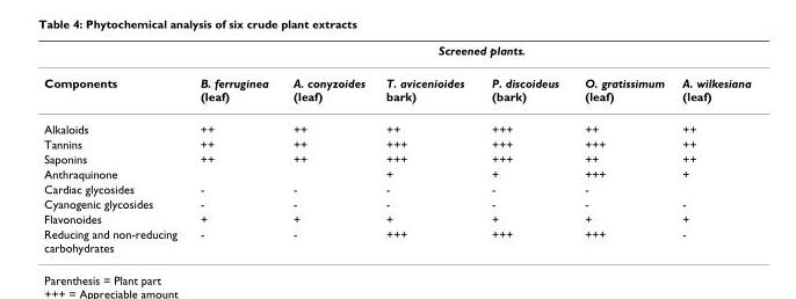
<table><thead><tr><td rowspan="2">Components</td><td colspan="6">Screened plants.</td></tr><tr><td>B. ferruginea (leaf)</td><td>A. conyzoides (leaf)</td><td>T. avicenioides bark)</td><td>P. discoideus (bark)</td><td>O. gratissimum (leaf)</td><td>A. wilkesiana (leaf)</td></tr></thead><tbody><tr><td>Alkaloids</td><td>++</td><td>++</td><td>++</td><td>+++</td><td>++</td><td>++</td></tr><tr><td>Tannins</td><td>++</td><td>++</td><td>+++</td><td>+++</td><td>+++</td><td>++</td></tr><tr><td>Saponins</td><td>++</td><td>++</td><td>+++</td><td>+++</td><td>++</td><td>++</td></tr><tr><td>Anthraquinone</td><td></td><td></td><td>+</td><td>+</td><td>+++</td><td>+</td></tr><tr><td>Cardiac glycosides</td><td>-</td><td>-</td><td>-</td><td>-</td><td>-</td><td></td></tr><tr><td>Cyanogenic glycosides</td><td>-</td><td>-</td><td>-</td><td>-</td><td>-</td><td>-</td></tr><tr><td>Flavonoides</td><td>+</td><td>+</td><td>+</td><td>+</td><td>+</td><td>+</td></tr><tr><td>Reducing and non-reducing carbohydrates</td><td>-</td><td>-</td><td>+++</td><td>+++</td><td>+++</td><td>-</td></tr></tbody></table>